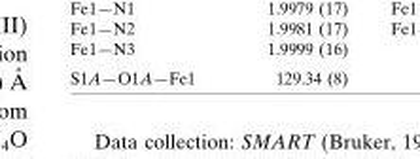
<table><tbody><tr><td>S1A—O1A—Fe1</td><td>129.34 (8)</td></tr></tbody></table>